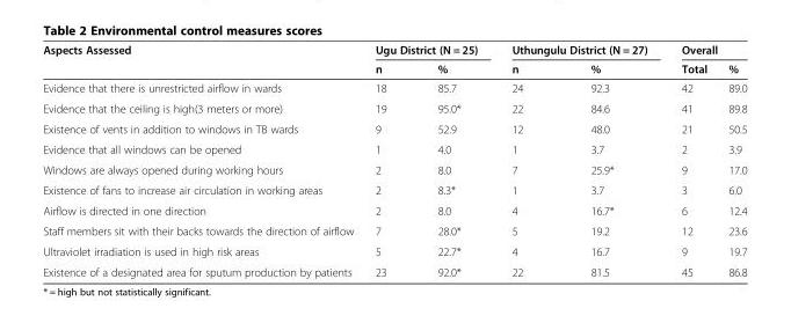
<table><thead><tr><td rowspan="2">Aspects Assessed</td><td colspan="2">Ugu District (N = 25)</td><td colspan="2">Uthungulu District (N = 27)</td><td colspan="2">Overall</td></tr><tr><td>n</td><td>%</td><td>n</td><td>%</td><td>Total</td><td>%</td></tr></thead><tbody><tr><td>Evidence that there is unrestricted airflow in wards</td><td>18</td><td>85.7</td><td>24</td><td>92.3</td><td>42</td><td>89.0</td></tr><tr><td>Evidence that the ceiling is high(3 meters or more)</td><td>19</td><td>95.0*</td><td>22</td><td>84.6</td><td>41</td><td>89.8</td></tr><tr><td>Existence of vents in addition to windows in TB wards</td><td>9</td><td>52.9</td><td>12</td><td>48.0</td><td>21</td><td>50.5</td></tr><tr><td>Evidence that all windows can be opened</td><td>1</td><td>4.0</td><td>1</td><td>3.7</td><td>2</td><td>3.9</td></tr><tr><td>Windows are always opened during working hours</td><td>2</td><td>8.0</td><td>7</td><td>25.9*</td><td>9</td><td>17.0</td></tr><tr><td>Existence of fans to increase air circulation in working areas</td><td>2</td><td>8.3*</td><td>1</td><td>3.7</td><td>3</td><td>6.0</td></tr><tr><td>Airflow is directed in one direction</td><td>2</td><td>8.0</td><td>4</td><td>16.7*</td><td>6</td><td>12.4</td></tr><tr><td>Staff members sit with their backs towards the direction of airflow</td><td>7</td><td>28.0*</td><td>5</td><td>19.2</td><td>12</td><td>23.6</td></tr><tr><td>Ultraviolet irradiation is used in high risk areas</td><td>5</td><td>22.7*</td><td>4</td><td>16.7</td><td>9</td><td>19.7</td></tr><tr><td>Existence of a designated area for sputum production by patients</td><td>23</td><td>92.0*</td><td>22</td><td>81.5</td><td>45</td><td>86.8</td></tr></tbody></table>